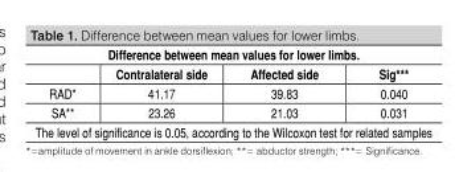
<table><thead><tr><td colspan="4">Difference between mean values for lower limbs.</td></tr><tr><td></td><td>Contralateral side</td><td>Affected side</td><td>Sig***</td></tr></thead><tbody><tr><td>RAD*</td><td>41.17</td><td>39.83</td><td>0.040</td></tr><tr><td>SA**</td><td>23.26</td><td>21.03</td><td>0.031</td></tr></tbody></table>